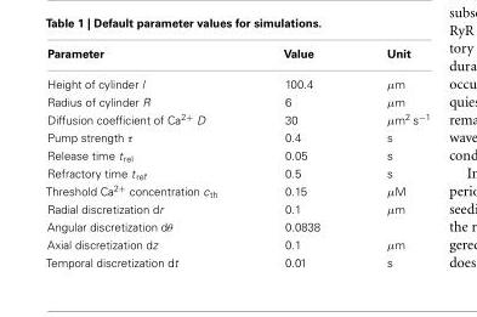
<table><thead><tr><td>Parameter</td><td>Value</td><td>Unit</td></tr></thead><tbody><tr><td>Height of cylinder l</td><td>100.4</td><td>µm</td></tr><tr><td>Radius of cylinder R</td><td>6</td><td>µm</td></tr><tr><td>Diffusion coefficient of Ca<sup>2+</sup> D</td><td>30</td><td>µm<sup>2</sup> s<sup>−1</sup></td></tr><tr><td>Pump strength τ</td><td>0.4</td><td>s</td></tr><tr><td>Release time t<sub>rel</sub></td><td>0.05</td><td>s</td></tr><tr><td>Refractory time t<sub>ref</sub></td><td>0.5</td><td>s</td></tr><tr><td>Threshold Ca<sup>2+</sup> concentration c<sub>th</sub></td><td>0.15</td><td>µM</td></tr><tr><td>Radial discretization dr</td><td>0.1</td><td>µm</td></tr><tr><td>Angular discretization dθ</td><td>0.0838</td><td></td></tr><tr><td>Axial discretization dz</td><td>0.1</td><td>µm</td></tr><tr><td>Temporal discretization dt</td><td>0.01</td><td>s</td></tr></tbody></table>